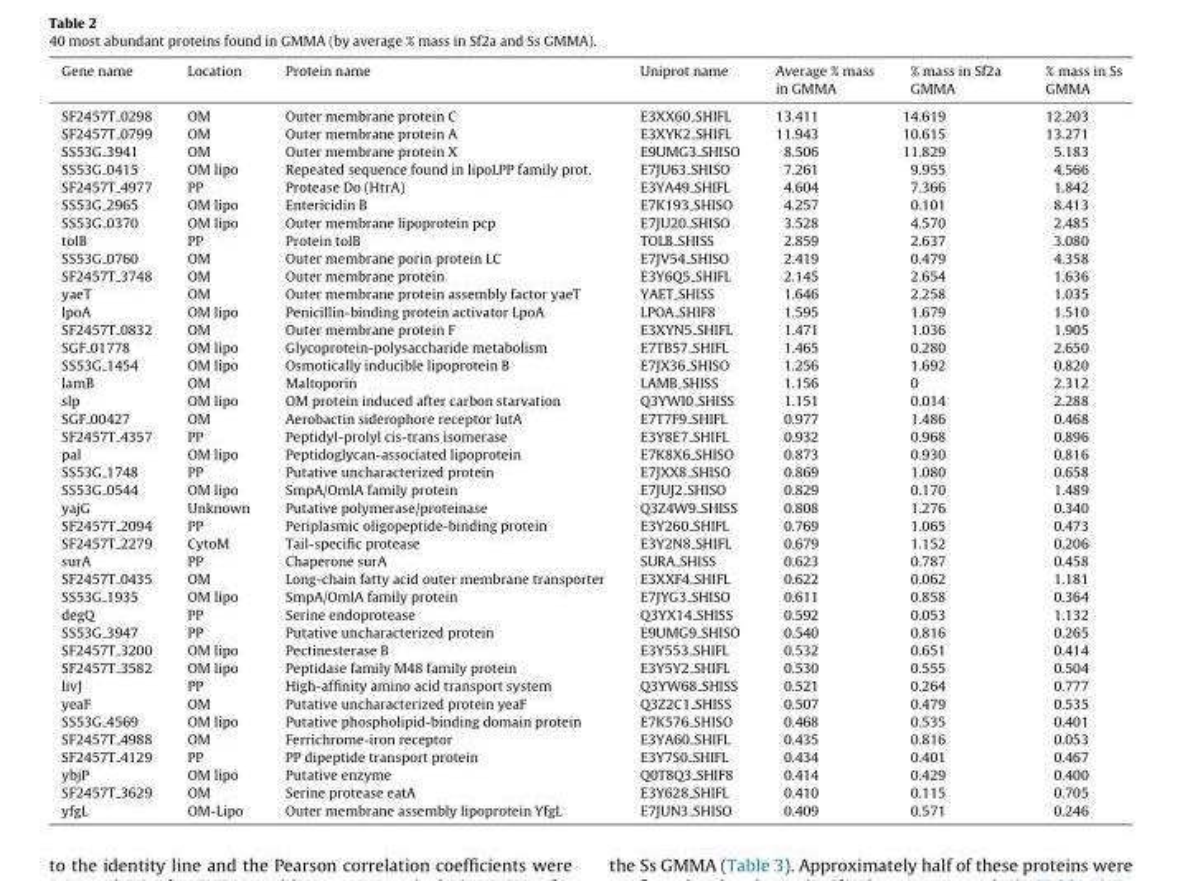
<table><thead><tr><td>Gene name</td><td>Location</td><td>Protein name</td><td>Uniprot name</td><td>Average % mass in GMMA</td><td>% mass in Sf2a GMMA</td><td>% mass in Ss GMMA</td></tr></thead><tbody><tr><td>SF2457T 0298</td><td>OM</td><td>Outer membrane protein C</td><td>E3XX60 SHIFL</td><td>13.411</td><td>14.619</td><td>12.203</td></tr><tr><td>SF2457T 0799</td><td>OM</td><td>Outer membrane protein A</td><td>E3XYK2 SHIFL</td><td>11.943</td><td>10.615</td><td>13.271</td></tr><tr><td>SS53G 3941</td><td>OM</td><td>Outer membrane protein X</td><td>E9UMG3 SHISO</td><td>8.506</td><td>11.829</td><td>5.183</td></tr><tr><td>SS53G 0415</td><td>OM lipo</td><td>Repeated sequence found in lipoLPP family prot.</td><td>E7JU63 SHISO</td><td>7.261</td><td>9.955</td><td>4.566</td></tr><tr><td>SF2457T 4977</td><td>PP</td><td>Protease Do (HtrA)</td><td>E3YA49 SHIFL</td><td>4.604</td><td>7.366</td><td>1.842</td></tr><tr><td>SS53G 2965</td><td>OM lipo</td><td>Entericidin B</td><td>E7K193 SHISO</td><td>4.257</td><td>0.101</td><td>8.413</td></tr><tr><td>SS53G 0370</td><td>OM lipo</td><td>Outer membrane lipoprotein pcp</td><td>E7JU20 SHISO</td><td>3.528</td><td>4.570</td><td>2.485</td></tr><tr><td>tolB</td><td>PP</td><td>Protein tolB</td><td>TOLB SHISS</td><td>2.859</td><td>2.637</td><td>3.080</td></tr><tr><td>SS53G 0760</td><td>OM</td><td>Outer membrane porin protein LC</td><td>E7JV54 SHISO</td><td>2.419</td><td>0.479</td><td>4.358</td></tr><tr><td>SF2457T 3748</td><td>OM</td><td>Outer membrane protein</td><td>E3Y6Q5 SHIFL</td><td>2.145</td><td>2.654</td><td>1.636</td></tr><tr><td>yaeT</td><td>OM</td><td>Outer membrane protein assembly factor yaeT</td><td>YAET SHISS</td><td>1.646</td><td>2.258</td><td>1.035</td></tr><tr><td>lpoA</td><td>OM lipo</td><td>Penicillin-binding protein activator LpoA</td><td>LPOA SHIF8</td><td>1.595</td><td>1.679</td><td>1.510</td></tr><tr><td>SF2457T 0832</td><td>OM</td><td>Outer membrane protein F</td><td>E3XYN5 SHIFL</td><td>1.471</td><td>1.036</td><td>1.905</td></tr><tr><td>SGF 01778</td><td>OM lipo</td><td>Glycoprotein-polysaccharide metabolism</td><td>E7TB57 SHIFL</td><td>1.465</td><td>0.280</td><td>2.650</td></tr><tr><td>SS53G 1454</td><td>OM lipo</td><td>Osmotically inducible lipoprotein B</td><td>E7JX36 SHISO</td><td>1.256</td><td>1.692</td><td>0.820</td></tr><tr><td>lamB</td><td>OM</td><td>Maltoporin</td><td>LAMB SHISS</td><td>1.156</td><td>0</td><td>2.312</td></tr><tr><td>slp</td><td>OM lipo</td><td>OM protein induced after carbon starvation</td><td>Q3YWI0 SHISS</td><td>1.151</td><td>0.014</td><td>2.288</td></tr><tr><td>SGF 00427</td><td>OM</td><td>Aerobactin siderophore receptor IutA</td><td>E7T7F9 SHIFL</td><td>0.977</td><td>1.486</td><td>0.468</td></tr><tr><td>SF2457T 4357</td><td>PP</td><td>Peptidyl-prolyl cis-trans isomerase</td><td>E3Y8E7 SHIFL</td><td>0.932</td><td>0.968</td><td>0.896</td></tr><tr><td>pal</td><td>OM lipo</td><td>Peptidoglycan-associated lipoprotein</td><td>E7K8X6 SHISO</td><td>0.873</td><td>0.930</td><td>0.816</td></tr><tr><td>SS53G 1748</td><td>PP</td><td>Putative uncharacterized protein</td><td>E7JXX8 SHISO</td><td>0.869</td><td>1.080</td><td>0.658</td></tr><tr><td>SS53G 0544</td><td>OM lipo</td><td>SmpA/OmlA family protein</td><td>E7JUJ2 SHISO</td><td>0.829</td><td>0.170</td><td>1.489</td></tr><tr><td>yajG</td><td>Unknown</td><td>Putative polymerase/proteinase</td><td>Q3Z4W9 SHISS</td><td>0.808</td><td>1.276</td><td>0.340</td></tr><tr><td>SF2457T 2094</td><td>PP</td><td>Periplasmic oligopeptide-binding protein</td><td>E3Y260 SHIFL</td><td>0.769</td><td>1.065</td><td>0.473</td></tr><tr><td>SF2457T 2279</td><td>CytoM</td><td>Tail-specific protease</td><td>E3Y2N8 SHIFL</td><td>0.679</td><td>1.152</td><td>0.206</td></tr><tr><td>surA</td><td>PP</td><td>Chaperone surA</td><td>SURA SHISS</td><td>0.623</td><td>0.787</td><td>0.458</td></tr><tr><td>SF2457T 0435</td><td>OM</td><td>Long-chain fatty acid outer membrane transporter</td><td>E3XXF4 SHIFL</td><td>0.622</td><td>0.062</td><td>1.181</td></tr><tr><td>SS53G 1935</td><td>OM lipo</td><td>SmpA/OmlA family protein</td><td>E7JYG3 SHISO</td><td>0.611</td><td>0.858</td><td>0.364</td></tr><tr><td>degQ</td><td>PP</td><td>Serine endoprotease</td><td>Q3YX14 SHISS</td><td>0.592</td><td>0.053</td><td>1.132</td></tr><tr><td>SS53G 3947</td><td>PP</td><td>Putative uncharacterized protein</td><td>E9UMG9 SHISO</td><td>0.540</td><td>0.816</td><td>0.265</td></tr><tr><td>SF2457T 3200</td><td>OM lipo</td><td>Pectinesterase B</td><td>E3Y553 SHIFL</td><td>0.532</td><td>0.651</td><td>0.414</td></tr><tr><td>SF2457T 3582</td><td>OM lipo</td><td>Peptidase family M48 family protein</td><td>E3Y5Y2 SHIFL</td><td>0.530</td><td>0.555</td><td>0.504</td></tr><tr><td>livJ</td><td>PP</td><td>High-affinity amino acid transport system</td><td>Q3YW68 SHISS</td><td>0.521</td><td>0.264</td><td>0.777</td></tr><tr><td>yeaF</td><td>OM</td><td>Putative uncharacterized protein yeaF</td><td>Q3Z2C1 SHISS</td><td>0.507</td><td>0.479</td><td>0.535</td></tr><tr><td>SS53G 4569</td><td>OM lipo</td><td>Putative phospholipid-binding domain protein</td><td>E7K576 SHISO</td><td>0.468</td><td>0.535</td><td>0.401</td></tr><tr><td>SF2457T 4988</td><td>OM</td><td>Ferrichrome-iron receptor</td><td>E3YA60 SHIFL</td><td>0.435</td><td>0.816</td><td>0.053</td></tr><tr><td>SF2457T 4129</td><td>PP</td><td>PP dipeptide transport protein</td><td>E3Y7S0 SHIFL</td><td>0.434</td><td>0.401</td><td>0.467</td></tr><tr><td>ybjP</td><td>OM lipo</td><td>Putative enzyme</td><td>Q0T8Q3 SHIF8</td><td>0.414</td><td>0.429</td><td>0.400</td></tr><tr><td>SF2457T 3629</td><td>OM</td><td>Serine protease eatA</td><td>E3Y628 SHIFL</td><td>0.410</td><td>0.115</td><td>0.705</td></tr><tr><td>yfgL</td><td>OM-Lipo</td><td>Outer membrane assembly lipoprotein YfgL</td><td>E7JUN3 SHISO</td><td>0.409</td><td>0.571</td><td>0.246</td></tr></tbody></table>